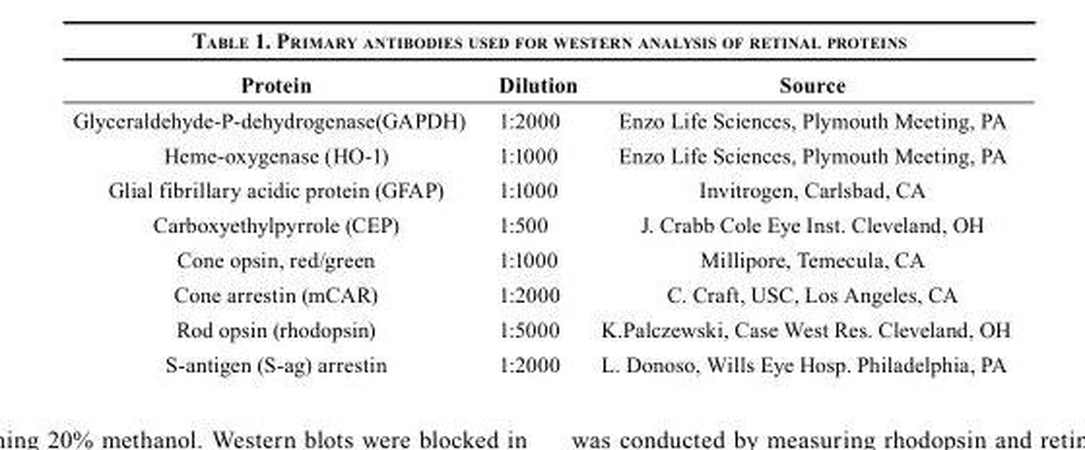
<table><thead><tr><td>Protein</td><td>Dilution</td><td>Source</td></tr></thead><tbody><tr><td>Glyceraldehyde-P-dehydrogenase(GAPDH)</td><td>1:2000</td><td>Enzo Life Sciences, Plymouth Meeting, PA</td></tr><tr><td>Heme-oxygenase (HO-1)</td><td>1:1000</td><td>Enzo Life Sciences, Plymouth Meeting, PA</td></tr><tr><td>Glial fibrillary acidic protein (GFAP)</td><td>1:1000</td><td>Invitrogen, Carlsbad, CA</td></tr><tr><td>Carboxyethylpyrrole (CEP)</td><td>1:500</td><td>J. Crabb Cole Eye Inst. Cleveland, OH</td></tr><tr><td>Cone opsin, red/green</td><td>1:1000</td><td>Millipore, Temecula, CA</td></tr><tr><td>Cone arrestin (mCAR)</td><td>1:2000</td><td>C. Craft, USC, Los Angeles, CA</td></tr><tr><td>Rod opsin (rhodopsin)</td><td>1:5000</td><td>K.Palczewski, Case West Res. Cleveland, OH</td></tr><tr><td>S-antigen (S-ag) arrestin</td><td>1:2000</td><td>L. Donoso, Wills Eye Hosp. Philadelphia, PA</td></tr></tbody></table>